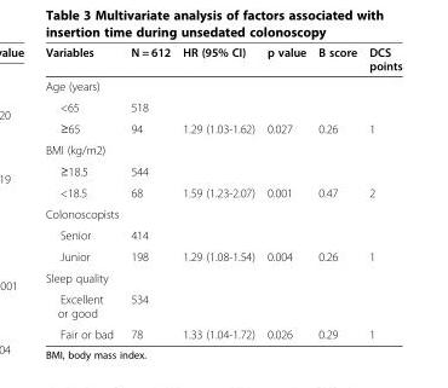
<table><thead><tr><td>Variables</td><td>N = 612</td><td>HR (95% CI)</td><td>p value</td><td>B score</td><td>DCS points</td></tr></thead><tbody><tr><td colspan="6">Age (years)</td></tr><tr><td>&lt;65</td><td>518</td><td></td><td></td><td></td><td></td></tr><tr><td>≥65</td><td>94</td><td>1.29 (1.03-1.62)</td><td>0.027</td><td>0.26</td><td>1</td></tr><tr><td colspan="6">BMI (kg/m2)</td></tr><tr><td>≥18.5</td><td>544</td><td></td><td></td><td></td><td></td></tr><tr><td>&lt;18.5</td><td>68</td><td>1.59 (1.23-2.07)</td><td>0.001</td><td>0.47</td><td>2</td></tr><tr><td colspan="6">Colonoscopists</td></tr><tr><td>Senior</td><td>414</td><td></td><td></td><td></td><td></td></tr><tr><td>Junior</td><td>198</td><td>1.29 (1.08-1.54)</td><td>0.004</td><td>0.26</td><td>1</td></tr><tr><td colspan="6">Sleep quality</td></tr><tr><td>Excellent or good</td><td>534</td><td></td><td></td><td></td><td></td></tr><tr><td>Fair or bad</td><td>78</td><td>1.33 (1.04-1.72)</td><td>0.026</td><td>0.29</td><td>1</td></tr></tbody></table>